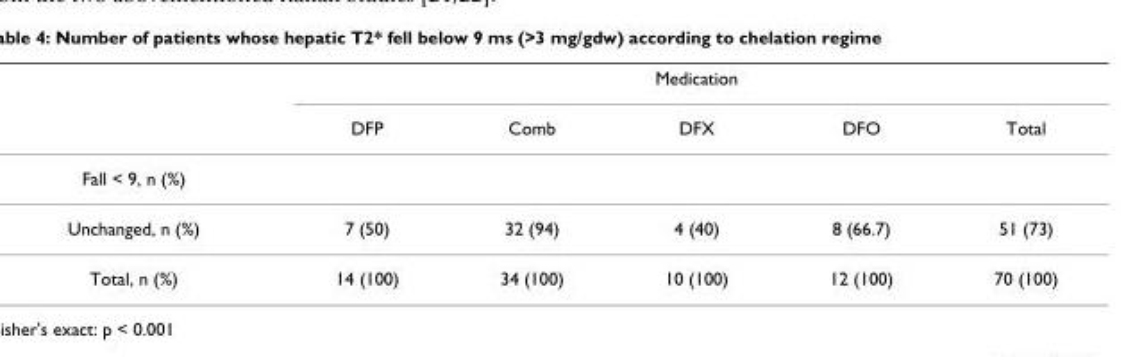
<table><thead><tr><td rowspan="2"></td><td colspan="5">Medication</td></tr><tr><td>DFP</td><td>Comb</td><td>DFX</td><td>DFO</td><td>Total</td></tr></thead><tbody><tr><td colspan="6">Fall &lt; 9, n (%)</td></tr><tr><td>Unchanged, n (%)</td><td>7 (50)</td><td>32 (94)</td><td>4 (40)</td><td>8 (66.7)</td><td>51 (73)</td></tr><tr><td>Total, n (%)</td><td>14 (100)</td><td>34 (100)</td><td>10 (100)</td><td>12 (100)</td><td>70 (100)</td></tr></tbody></table>